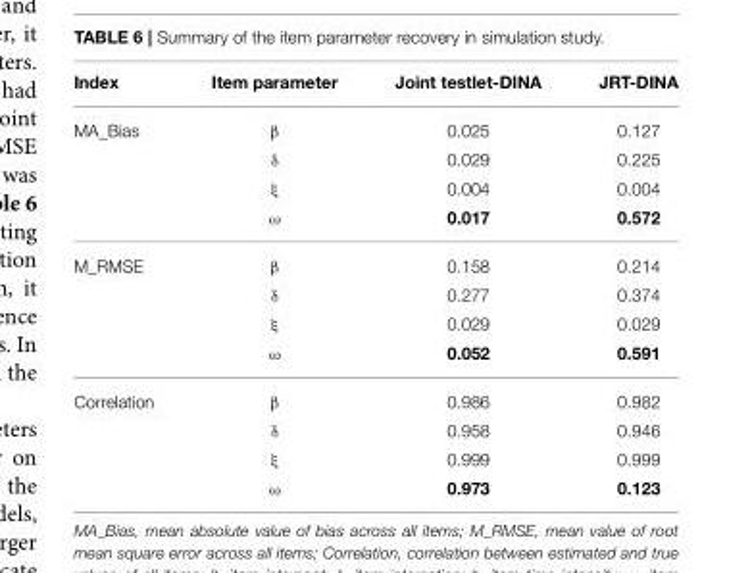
<table><thead><tr><td>Index</td><td>Item parameter</td><td>Joint testlet-DINA</td><td>JRT-DINA</td></tr></thead><tbody><tr><td rowspan="4">MA_Bias</td><td>β</td><td>0.025</td><td>0.127</td></tr><tr><td>δ</td><td>0.029</td><td>0.225</td></tr><tr><td>ξ</td><td>0.004</td><td>0.004</td></tr><tr><td>ω</td><td>0.017</td><td>0.572</td></tr><tr><td rowspan="4">M_RMSE</td><td>β</td><td>0.158</td><td>0.214</td></tr><tr><td>δ</td><td>0.277</td><td>0.374</td></tr><tr><td>ξ</td><td>0.029</td><td>0.029</td></tr><tr><td>ω</td><td>0.052</td><td>0.591</td></tr><tr><td rowspan="4">Correlation</td><td>β</td><td>0.986</td><td>0.982</td></tr><tr><td>δ</td><td>0.958</td><td>0.946</td></tr><tr><td>ξ</td><td>0.999</td><td>0.999</td></tr><tr><td>ω</td><td>0.973</td><td>0.123</td></tr></tbody></table>